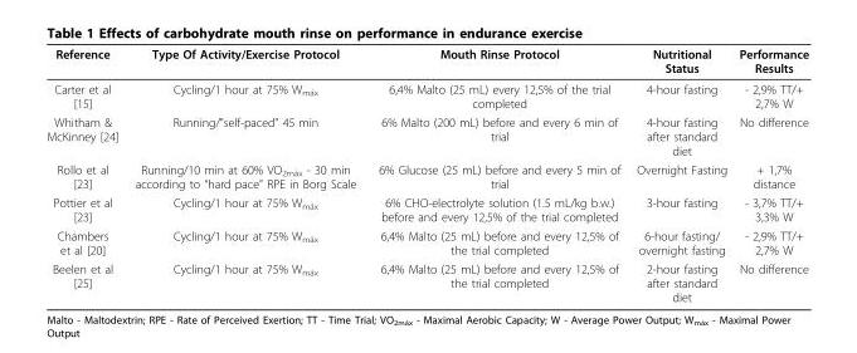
<table><thead><tr><td>Reference</td><td>Type Of Activity/Exercise Protocol</td><td>Mouth Rinse Protocol</td><td>Nutritional Status</td><td>Performance Results</td></tr></thead><tbody><tr><td>Carter et al [15]</td><td>Cycling/1 hour at 75% W<sub>máx</sub></td><td>6,4% Malto (25 mL) every 12,5% of the trial completed</td><td>4-hour fasting</td><td>- 2,9% TT/+ 2,7% W</td></tr><tr><td>Whitham &amp; McKinney [24]</td><td>Running/&quot;self-paced” 45 min</td><td>6% Malto (200 mL) before and every 6 min of trial</td><td>4-hour fasting after standard diet</td><td>No difference</td></tr><tr><td>Rollo et al [23]</td><td>Running/10 min at 60% VO2máx - 30 min according to “hard pace” RPE in Borg Scale</td><td>6% Glucose (25 mL) before and every 5 min of trial</td><td>Overnight Fasting</td><td>+ 1,7% distance</td></tr><tr><td>Pottier et al [23]</td><td>Cycling/1 hour at 75% W<sub>máx</sub></td><td>6% CHO-electrolyte solution (1.5 mL/kg b.w.) before and every 12,5% of the trial completed</td><td>3-hour fasting</td><td>- 3,7% TT/+ 3,3% W</td></tr><tr><td>Chambers et al [20]</td><td>Cycling/1 hour at 75% W<sub>máx</sub></td><td>6,4% Malto (25 mL) before and every 12,5% of the trial completed</td><td>6-hour fasting/ overnight fasting</td><td>- 2,9% TT/+ 2,7% W</td></tr><tr><td>Beelen et al [25]</td><td>Cycling/1 hour at 75% W<sub>máx</sub></td><td>6,4% Malto (25 mL) before and every 12,5% of the trial completed</td><td>2-hour fasting after standard diet</td><td>No difference</td></tr></tbody></table>